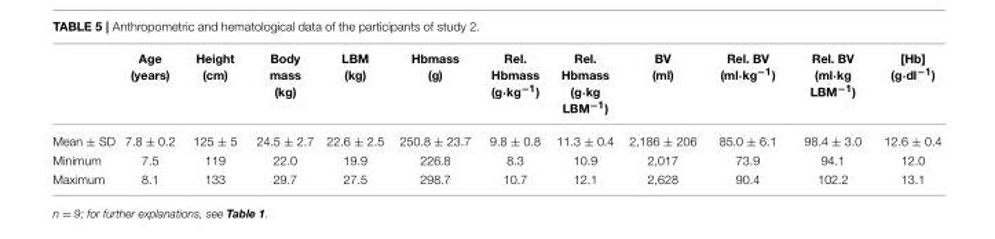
<table><thead><tr><td></td><td>Age (years)</td><td>Height (cm)</td><td>Body mass (kg)</td><td>LBM (kg)</td><td>Hbmass (g)</td><td>Rel. Hbmass (g·kg<sup>−1</sup>)</td><td>Rel. Hbmass (g·kg LBM<sup>−1</sup>)</td><td>BV (ml)</td><td>Rel. BV (ml·kg<sup>−1</sup>)</td><td>Rel. BV (ml·kg LBM<sup>−1</sup>)</td><td>[Hb] (g·dl<sup>−1</sup>)</td></tr></thead><tbody><tr><td>Mean ± SD</td><td>7.8 ± 0.2</td><td>125 ± 5</td><td>24.5 ± 2.7</td><td>22.6 ± 2.5</td><td>250.8 ± 23.7</td><td>9.8 ± 0.8</td><td>11.3 ± 0.4</td><td>2,186 ± 206</td><td>85.0 ± 6.1</td><td>98.4 ± 3.0</td><td>12.6 ± 0.4</td></tr><tr><td>Minimum</td><td>7.5</td><td>119</td><td>22.0</td><td>19.9</td><td>226.8</td><td>8.3</td><td>10.9</td><td>2,017</td><td>73.9</td><td>94.1</td><td>12.0</td></tr><tr><td>Maximum</td><td>8.1</td><td>133</td><td>29.7</td><td>27.5</td><td>298.7</td><td>10.7</td><td>12.1</td><td>2,628</td><td>90.4</td><td>102.2</td><td>13.1</td></tr></tbody></table>